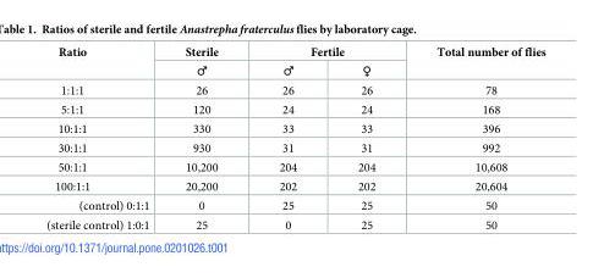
<table><thead><tr><td rowspan="2">Ratio</td><td rowspan="2">Sterile ♂</td><td colspan="2">Fertile</td><td rowspan="2">Total number of flies</td></tr><tr><td>♂</td><td>♀</td></tr></thead><tbody><tr><td>1:1:1</td><td>26</td><td>26</td><td>26</td><td>78</td></tr><tr><td>5:1:1</td><td>120</td><td>24</td><td>24</td><td>168</td></tr><tr><td>10:1:1</td><td>330</td><td>33</td><td>33</td><td>396</td></tr><tr><td>30:1:1</td><td>930</td><td>31</td><td>31</td><td>992</td></tr><tr><td>50:1:1</td><td>10,200</td><td>204</td><td>204</td><td>10,608</td></tr><tr><td>100:1:1</td><td>20,200</td><td>202</td><td>202</td><td>20,604</td></tr><tr><td>(control) 0:1:1</td><td>0</td><td>25</td><td>25</td><td>50</td></tr><tr><td>(sterile control) 1:0:1</td><td>25</td><td>0</td><td>25</td><td>50</td></tr></tbody></table>